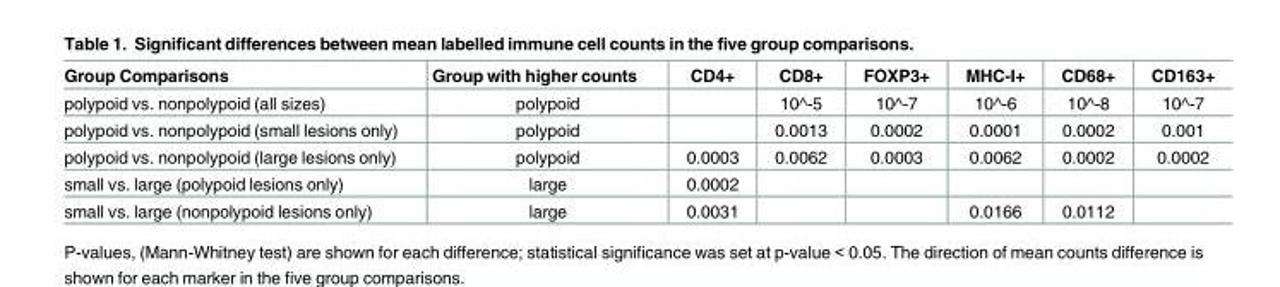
<table><thead><tr><td>Group Comparisons</td><td>Group with higher counts</td><td>CD4+</td><td>CD8+</td><td>FOXP3+</td><td>MHC-I+</td><td>CD68+</td><td>CD163+</td></tr></thead><tbody><tr><td>polypoid vs. nonpolypoid (all sizes)</td><td>polypoid</td><td></td><td>10^-5</td><td>10^-7</td><td>10^-6</td><td>10^-8</td><td>10^-7</td></tr><tr><td>polypoid vs. nonpolypoid (small lesions only)</td><td>polypoid</td><td></td><td>0.0013</td><td>0.0002</td><td>0.0001</td><td>0.0002</td><td>0.001</td></tr><tr><td>polypoid vs. nonpolypoid (large lesions only)</td><td>polypoid</td><td>0.0003</td><td>0.0062</td><td>0.0003</td><td>0.0062</td><td>0.0002</td><td>0.0002</td></tr><tr><td>small vs. large (polypoid lesions only)</td><td>large</td><td>0.0002</td><td></td><td></td><td></td><td></td><td></td></tr><tr><td>small vs. large (nonpolypoid lesions only)</td><td>large</td><td>0.0031</td><td></td><td></td><td>0.0166</td><td>0.0112</td><td></td></tr></tbody></table>